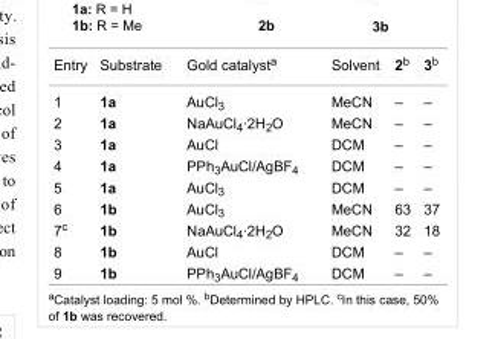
<table><tbody><tr><td>Entry</td><td>Substrate</td><td>Gold catalyst<sup>a</sup></td><td>Solvent</td><td>2<sup>b</sup></td><td>3<sup>b</sup></td></tr><tr><td>1</td><td>1a</td><td>AuCl<sub>3</sub></td><td>MeCN</td><td>–</td><td>–</td></tr><tr><td>2</td><td>1a</td><td>NaAuCl<sub>4</sub>·2H<sub>2</sub>O</td><td>MeCN</td><td>–</td><td>–</td></tr><tr><td>3</td><td>1a</td><td>AuCl</td><td>DCM</td><td>–</td><td>–</td></tr><tr><td>4</td><td>1a</td><td>PPh<sub>3</sub>AuCl/AgBF<sub>4</sub></td><td>DCM</td><td>–</td><td>–</td></tr><tr><td>5</td><td>1a</td><td>AuCl<sub>3</sub></td><td>DCM</td><td>–</td><td>–</td></tr><tr><td>6</td><td>1b</td><td>AuCl<sub>3</sub></td><td>MeCN</td><td>63</td><td>37</td></tr><tr><td>7<sup>c</sup></td><td>1b</td><td>NaAuCl<sub>4</sub>·2H<sub>2</sub>O</td><td>MeCN</td><td>32</td><td>18</td></tr><tr><td>8</td><td>1b</td><td>AuCl</td><td>DCM</td><td>–</td><td>–</td></tr><tr><td>9</td><td>1b</td><td>PPh<sub>3</sub>AuCl/AgBF<sub>4</sub></td><td>DCM</td><td>–</td><td>–</td></tr></tbody></table>